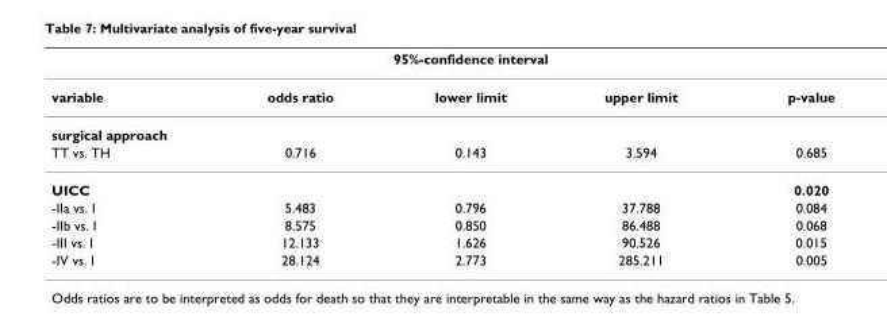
<table><thead><tr><td></td><td></td><td>95%-confidence interval</td><td></td><td></td></tr></thead><tbody><tr><td>variable</td><td>odds ratio</td><td>lower limit</td><td>upper limit</td><td>p-value</td></tr><tr><td colspan="5">surgical approach</td></tr><tr><td>TT vs. TH</td><td>0.716</td><td>0.143</td><td>3.594</td><td>0.685</td></tr><tr><td>UICC</td><td></td><td></td><td></td><td>0.020</td></tr><tr><td>-IIa vs. I</td><td>5.483</td><td>0.796</td><td>37.788</td><td>0.084</td></tr><tr><td>-IIb vs. I</td><td>8.575</td><td>0.850</td><td>86.488</td><td>0.068</td></tr><tr><td>-III vs. I</td><td>12.133</td><td>1.626</td><td>90.526</td><td>0.015</td></tr><tr><td>-IV vs. I</td><td>28.124</td><td>2.773</td><td>285.211</td><td>0.005</td></tr></tbody></table>